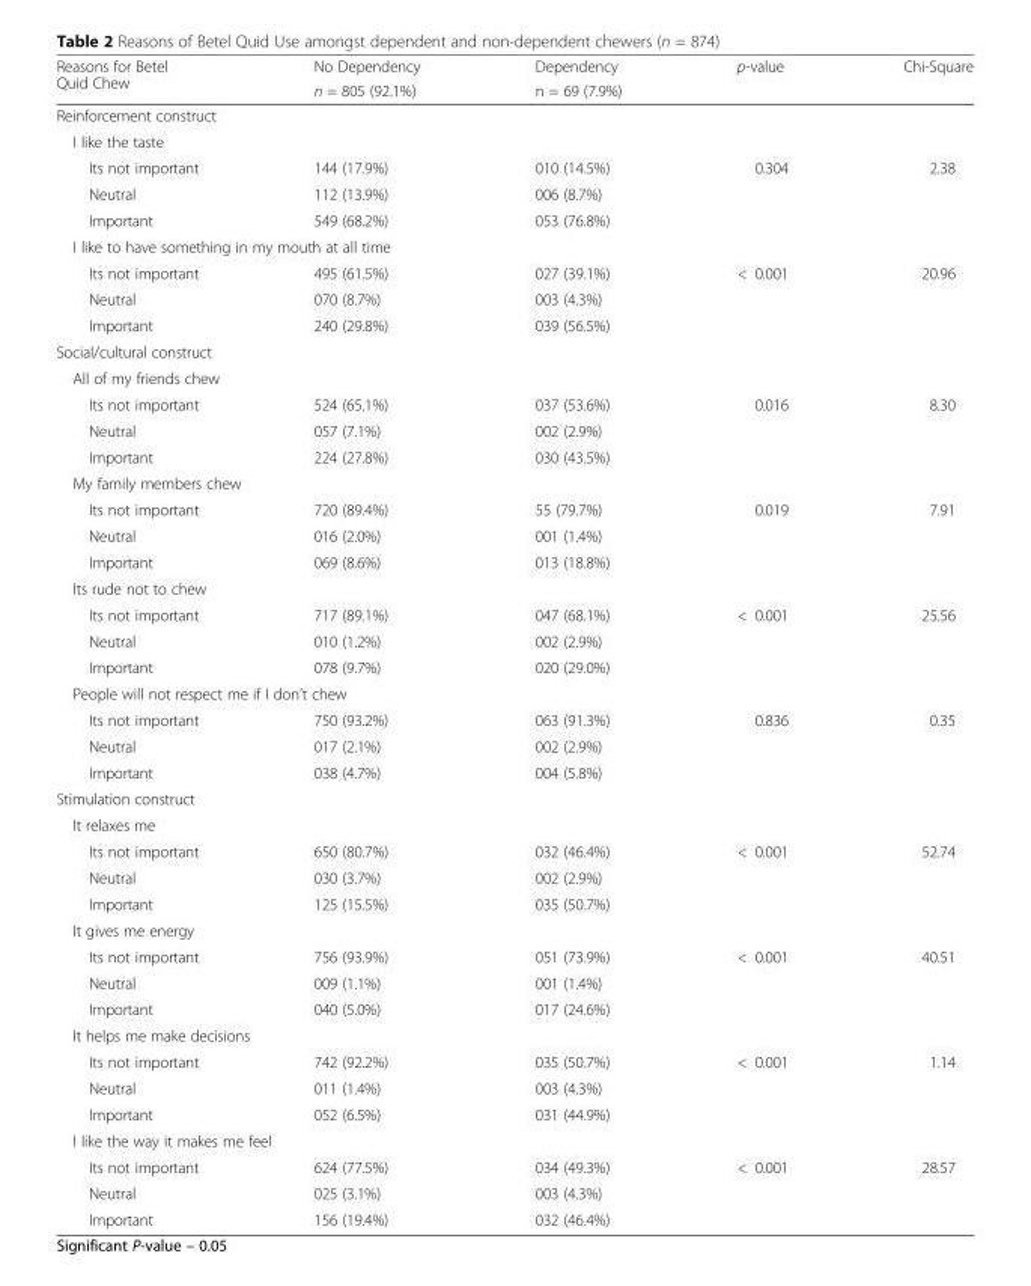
<table><thead><tr><td rowspan="2">Reasons for Betel Quid Chew</td><td rowspan="2">No Dependency n = 805 (92.1%)</td><td rowspan="2">Dependency n = 69 (7.9%)</td><td rowspan="2">p-value</td><td rowspan="2">Chi-Square</td></tr><tr></tr></thead><tbody><tr><td colspan="5">Reinforcement construct</td></tr><tr><td colspan="5">I like the taste</td></tr><tr><td>Its not important</td><td>144 (17.9%)</td><td>010 (14.5%)</td><td>0.304</td><td>2.38</td></tr><tr><td>Neutral</td><td>112 (13.9%)</td><td>006 (8.7%)</td><td></td><td></td></tr><tr><td>Important</td><td>549 (68.2%)</td><td>053 (76.8%)</td><td></td><td></td></tr><tr><td colspan="5">I like to have something in my mouth at all time</td></tr><tr><td>Its not important</td><td>495 (61.5%)</td><td>027 (39.1%)</td><td>&lt; 0.001</td><td>20.96</td></tr><tr><td>Neutral</td><td>070 (8.7%)</td><td>003 (4.3%)</td><td></td><td></td></tr><tr><td>Important</td><td>240 (29.8%)</td><td>039 (56.5%)</td><td></td><td></td></tr><tr><td colspan="5">Social/cultural construct</td></tr><tr><td colspan="5">All of my friends chew</td></tr><tr><td>Its not important</td><td>524 (65.1%)</td><td>037 (53.6%)</td><td>0.016</td><td>8.30</td></tr><tr><td>Neutral</td><td>057 (7.1%)</td><td>002 (2.9%)</td><td></td><td></td></tr><tr><td>Important</td><td>224 (27.8%)</td><td>030 (43.5%)</td><td></td><td></td></tr><tr><td colspan="5">My family members chew</td></tr><tr><td>Its not important</td><td>720 (89.4%)</td><td>55 (79.7%)</td><td>0.019</td><td>7.91</td></tr><tr><td>Neutral</td><td>016 (2.0%)</td><td>001 (1.4%)</td><td></td><td></td></tr><tr><td>Important</td><td>069 (8.6%)</td><td>013 (18.8%)</td><td></td><td></td></tr><tr><td colspan="5">Its rude not to chew</td></tr><tr><td>Its not important</td><td>717 (89.1%)</td><td>047 (68.1%)</td><td>&lt; 0.001</td><td>25.56</td></tr><tr><td>Neutral</td><td>010 (1.2%)</td><td>002 (2.9%)</td><td></td><td></td></tr><tr><td>Important</td><td>078 (9.7%)</td><td>020 (29.0%)</td><td></td><td></td></tr><tr><td colspan="5">People will not respect me if I don’t chew</td></tr><tr><td>Its not important</td><td>750 (93.2%)</td><td>063 (91.3%)</td><td>0.836</td><td>0.35</td></tr><tr><td>Neutral</td><td>017 (2.1%)</td><td>002 (2.9%)</td><td></td><td></td></tr><tr><td>Important</td><td>038 (4.7%)</td><td>004 (5.8%)</td><td></td><td></td></tr><tr><td colspan="5">Stimulation construct</td></tr><tr><td colspan="5">It relaxes me</td></tr><tr><td>Its not important</td><td>650 (80.7%)</td><td>032 (46.4%)</td><td>&lt; 0.001</td><td>52.74</td></tr><tr><td>Neutral</td><td>030 (3.7%)</td><td>002 (2.9%)</td><td></td><td></td></tr><tr><td>Important</td><td>125 (15.5%)</td><td>035 (50.7%)</td><td></td><td></td></tr><tr><td colspan="5">It gives me energy</td></tr><tr><td>Its not important</td><td>756 (93.9%)</td><td>051 (73.9%)</td><td>&lt; 0.001</td><td>40.51</td></tr><tr><td>Neutral</td><td>009 (1.1%)</td><td>001 (1.4%)</td><td></td><td></td></tr><tr><td>Important</td><td>040 (5.0%)</td><td>017 (24.6%)</td><td></td><td></td></tr><tr><td colspan="5">It helps me make decisions</td></tr><tr><td>Its not important</td><td>742 (92.2%)</td><td>035 (50.7%)</td><td>&lt; 0.001</td><td>1.14</td></tr><tr><td>Neutral</td><td>011 (1.4%)</td><td>003 (4.3%)</td><td></td><td></td></tr><tr><td>Important</td><td>052 (6.5%)</td><td>031 (44.9%)</td><td></td><td></td></tr><tr><td colspan="5">I like the way it makes me feel</td></tr><tr><td>Its not important</td><td>624 (77.5%)</td><td>034 (49.3%)</td><td>&lt; 0.001</td><td>28.57</td></tr><tr><td>Neutral</td><td>025 (3.1%)</td><td>003 (4.3%)</td><td></td><td></td></tr><tr><td>Important</td><td>156 (19.4%)</td><td>032 (46.4%)</td><td></td><td></td></tr></tbody></table>